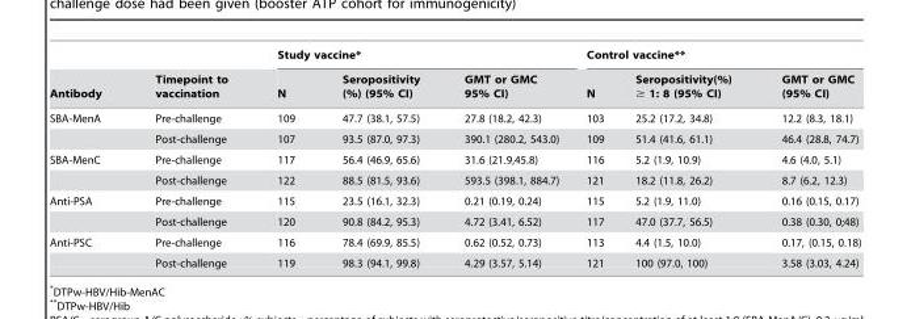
<table><thead><tr><td rowspan="2">Antibody</td><td rowspan="2">Timepoint to vaccination</td><td colspan="3">Study vaccine*</td><td colspan="3">Control vaccine**</td></tr><tr><td>N</td><td>Seropositivity (%) (95% CI)</td><td>GMT or GMC 95% CI)</td><td>N</td><td>Seropositivity(%) ≥ 1: 8 (95% CI)</td><td>GMT or GMC (95% CI)</td></tr></thead><tbody><tr><td rowspan="2">SBA-MenA</td><td>Pre-challenge</td><td>109</td><td>47.7 (38.1, 57.5)</td><td>27.8 (18.2, 42.3)</td><td>103</td><td>25.2 (17.2, 34.8)</td><td>12.2 (8.3, 18.1)</td></tr><tr><td>Post-challenge</td><td>107</td><td>93.5 (87.0, 97.3)</td><td>390.1 (280.2, 543.0)</td><td>109</td><td>51.4 (41.6, 61.1)</td><td>46.4 (28.8, 74.7)</td></tr><tr><td rowspan="2">SBA-MenC</td><td>Pre-challenge</td><td>117</td><td>56.4 (46.9, 65.6)</td><td>31.6 (21.9,45.8)</td><td>116</td><td>5.2 (1.9, 10.9)</td><td>4.6 (4.0, 5.1)</td></tr><tr><td>Post-challenge</td><td>122</td><td>88.5 (81.5, 93.6)</td><td>593.5 (398.1, 884.7)</td><td>121</td><td>18.2 (11.8, 26.2)</td><td>8.7 (6.2, 12.3)</td></tr><tr><td rowspan="2">Anti-PSA</td><td>Pre-challenge</td><td>115</td><td>23.5 (16.1, 32.3)</td><td>0.21 (0.19, 0.24)</td><td>115</td><td>5.2 (1.9, 11.0)</td><td>0.16 (0.15, 0.17)</td></tr><tr><td>Post-challenge</td><td>120</td><td>90.8 (84.2, 95.3)</td><td>4.72 (3.41, 6.52)</td><td>117</td><td>47.0 (37.7, 56.5)</td><td>0.38 (0.30, 0;48)</td></tr><tr><td rowspan="2">Anti-PSC</td><td>Pre-challenge</td><td>116</td><td>78.4 (69.9, 85.5)</td><td>0.62 (0.52, 0.73)</td><td>113</td><td>4.4 (1.5, 10.0)</td><td>0.17, (0.15, 0.18)</td></tr><tr><td>Post-challenge</td><td>119</td><td>98.3 (94.1, 99.8)</td><td>4.29 (3.57, 5.14)</td><td>121</td><td>100 (97.0, 100)</td><td>3.58 (3.03, 4.24)</td></tr></tbody></table>